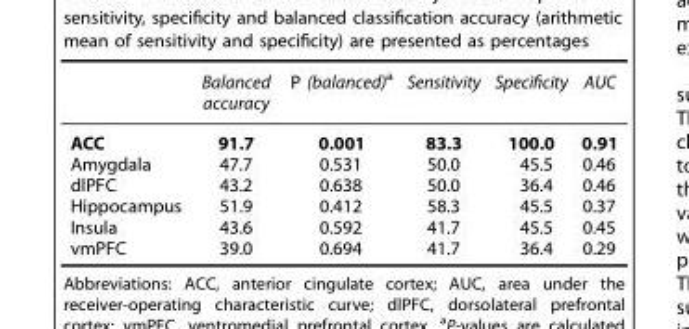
<table><thead><tr><td></td><td>Balanced accuracy</td><td>P (balanced)<sup>a</sup></td><td>Sensitivity</td><td>Specificity</td><td>AUC</td></tr></thead><tbody><tr><td>ACC</td><td>91.7</td><td>0.001</td><td>83.3</td><td>100.0</td><td>0.91</td></tr><tr><td>Amygdala</td><td>47.7</td><td>0.531</td><td>50.0</td><td>45.5</td><td>0.46</td></tr><tr><td>dlPFC</td><td>43.2</td><td>0.638</td><td>50.0</td><td>36.4</td><td>0.46</td></tr><tr><td>Hippocampus</td><td>51.9</td><td>0.412</td><td>58.3</td><td>45.5</td><td>0.37</td></tr><tr><td>Insula</td><td>43.6</td><td>0.592</td><td>41.7</td><td>45.5</td><td>0.45</td></tr><tr><td>vmPFC</td><td>39.0</td><td>0.694</td><td>41.7</td><td>36.4</td><td>0.29</td></tr></tbody></table>